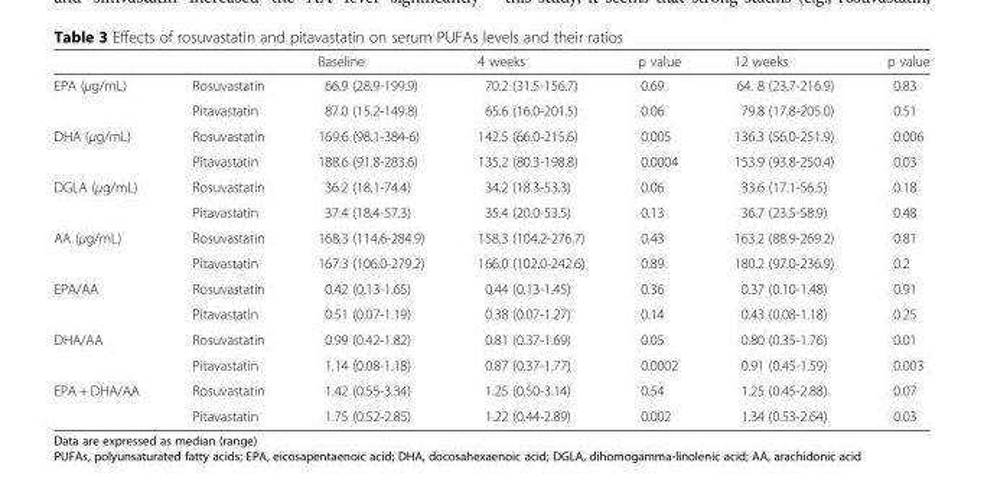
<table><thead><tr><td></td><td></td><td>Baseline</td><td>4 weeks</td><td>p value</td><td>12 weeks</td><td>p value</td></tr></thead><tbody><tr><td rowspan="2">EPA (μg/mL)</td><td>Rosuvastatin</td><td>66.9 (28.9-199.9)</td><td>70.2 (31.5-156.7)</td><td>0.69</td><td>64. 8 (23.7-216.9)</td><td>0.83</td></tr><tr><td>Pitavastatin</td><td>87.0 (15.2-149.8)</td><td>65.6 (16.0-201.5)</td><td>0.06</td><td>79.8 (17.8-205.0)</td><td>0.51</td></tr><tr><td rowspan="2">DHA (μg/mL)</td><td>Rosuvastatin</td><td>169.6 (98.1-384-6)</td><td>142.5 (66.0-215.6)</td><td>0.005</td><td>136.3 (56.0-251.9)</td><td>0.006</td></tr><tr><td>Pitavastatin</td><td>188.6 (91.8-283.6)</td><td>135.2 (80.3-198.8)</td><td>0.0004</td><td>153.9 (93.8-250.4)</td><td>0.03</td></tr><tr><td rowspan="2">DGLA (μg/mL)</td><td>Rosuvastatin</td><td>36.2 (18.1-74.4)</td><td>34.2 (18.3-53.3)</td><td>0.06</td><td>33.6 (17.1-56.5)</td><td>0.18</td></tr><tr><td>Pitavastatin</td><td>37.4 (18.4-57.3)</td><td>35.4 (20.0-53.5)</td><td>0.13</td><td>36.7 (23.5-58.9)</td><td>0.48</td></tr><tr><td rowspan="2">AA (μg/mL)</td><td>Rosuvastatin</td><td>168.3 (114.6-284.9)</td><td>158.3 (104.2-276.7)</td><td>0.43</td><td>163.2 (88.9-269.2)</td><td>0.81</td></tr><tr><td>Pitavastatin</td><td>167.3 (106.0-279.2)</td><td>166.0 (102.0-242.6)</td><td>0.89</td><td>180.2 (97.0-236.9)</td><td>0.2</td></tr><tr><td rowspan="2">EPA/AA</td><td>Rosuvastatin</td><td>0.42 (0.13-1.65)</td><td>0.44 (0.13-1.45)</td><td>0.36</td><td>0.37 (0.10-1.48)</td><td>0.91</td></tr><tr><td>Pitavastatin</td><td>0.51 (0.07-1.19)</td><td>0.38 (0.07-1.27)</td><td>0.14</td><td>0.43 (0.08-1.18)</td><td>0.25</td></tr><tr><td rowspan="2">DHA/AA</td><td>Rosuvastatin</td><td>0.99 (0.42-1.82)</td><td>0.81 (0.37-1.69)</td><td>0.05</td><td>0.80 (0.35-1.76)</td><td>0.01</td></tr><tr><td>Pitavastatin</td><td>1.14 (0.08-1.18)</td><td>0.87 (0.37-1.77)</td><td>0.0002</td><td>0.91 (0.45-1.59)</td><td>0.003</td></tr><tr><td rowspan="2">EPA + DHA/AA</td><td>Rosuvastatin</td><td>1.42 (0.55-3.34)</td><td>1.25 (0.50-3.14)</td><td>0.54</td><td>1.25 (0.45-2.88)</td><td>0.07</td></tr><tr><td>Pitavastatin</td><td>1.75 (0.52-2.85)</td><td>1.22 (0.44-2.89)</td><td>0.002</td><td>1.34 (0.53-2.64)</td><td>0.03</td></tr></tbody></table>